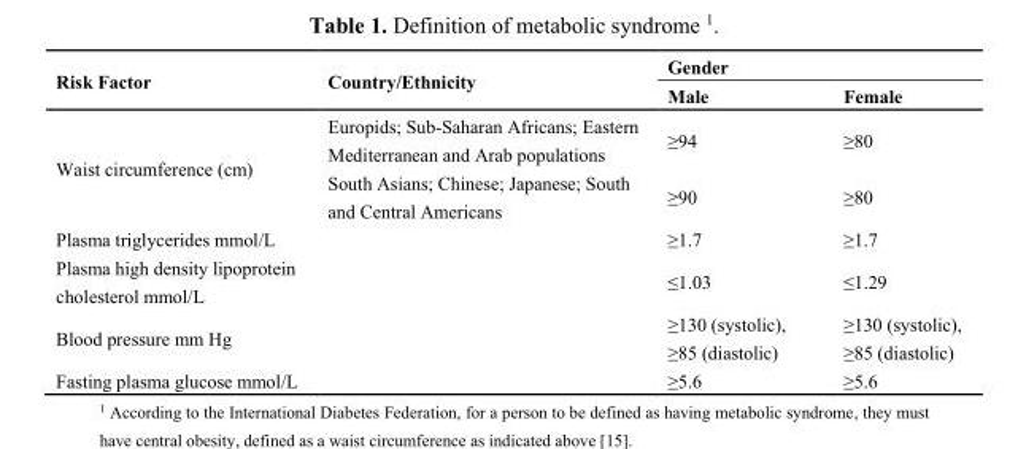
<table><thead><tr><td rowspan="2">Risk Factor</td><td rowspan="2">Country/Ethnicity</td><td colspan="2">Gender</td></tr><tr><td>Male</td><td>Female</td></tr></thead><tbody><tr><td rowspan="2">Waist circumference (cm)</td><td>Europids; Sub-Saharan Africans; Eastern Mediterranean and Arab populations</td><td>≥94</td><td>≥80</td></tr><tr><td>South Asians; Chinese; Japanese; South and Central Americans</td><td>≥90</td><td>≥80</td></tr><tr><td>Plasma triglycerides mmol/L</td><td></td><td>≥1.7</td><td>≥1.7</td></tr><tr><td>Plasma high density lipoprotein cholesterol mmol/L</td><td></td><td>≤1.03</td><td>≤1.29</td></tr><tr><td>Blood pressure mm Hg</td><td></td><td>≥130 (systolic), ≥85 (diastolic)</td><td>≥130 (systolic), ≥85 (diastolic)</td></tr><tr><td>Fasting plasma glucose mmol/L</td><td></td><td>≥5.6</td><td>≥5.6</td></tr></tbody></table>